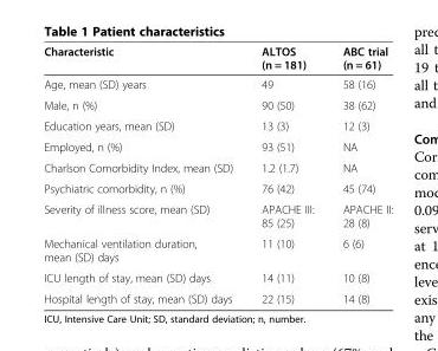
<table><thead><tr><td>Characteristic</td><td>ALTOS (n = 181)</td><td>ABC trial (n = 61)</td></tr></thead><tbody><tr><td>Age, mean (SD) years</td><td>49</td><td>58 (16)</td></tr><tr><td>Male, n (%)</td><td>90 (50)</td><td>38 (62)</td></tr><tr><td>Education years, mean (SD)</td><td>13 (3)</td><td>12 (3)</td></tr><tr><td>Employed, n (%)</td><td>93 (51)</td><td>NA</td></tr><tr><td>Charlson Comorbidity Index, mean (SD)</td><td>1.2 (1.7)</td><td>NA</td></tr><tr><td>Psychiatric comorbidity, n (%)</td><td>76 (42)</td><td>45 (74)</td></tr><tr><td>Severity of illness score, mean (SD)</td><td>APACHE III: 85 (25)</td><td>APACHE II: 28 (8)</td></tr><tr><td>Mechanical ventilation duration, mean (SD) days</td><td>11 (10)</td><td>6 (6)</td></tr><tr><td>ICU length of stay, mean (SD) days</td><td>14 (11)</td><td>10 (8)</td></tr><tr><td>Hospital length of stay, mean (SD) days</td><td>22 (15)</td><td>14 (8)</td></tr></tbody></table>